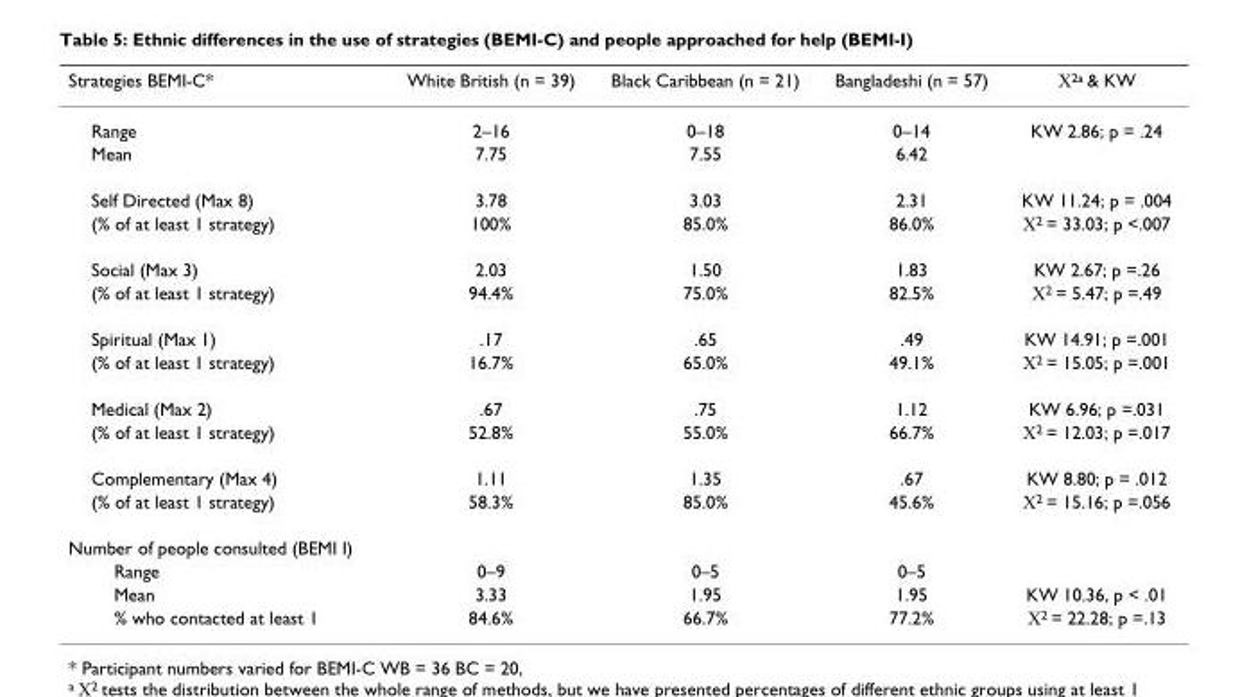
<table><thead><tr><td>Strategies BEMI-C*</td><td>White British (n = 39)</td><td>Black Caribbean (n = 21)</td><td>Bangladeshi (n = 57)</td><td>Χ<sup>2a</sup> &amp; KW</td></tr></thead><tbody><tr><td>Range</td><td>2–16</td><td>0–18</td><td>0–14</td><td>KW 2.86; p = .24</td></tr><tr><td>Mean</td><td>7.75</td><td>7.55</td><td>6.42</td><td></td></tr><tr><td>Self Directed (Max 8)</td><td>3.78</td><td>3.03</td><td>2.31</td><td>KW 11.24; p = .004</td></tr><tr><td>(% of at least 1 strategy)</td><td>100%</td><td>85.0%</td><td>86.0%</td><td>Χ<sup>2</sup> = 33.03; p &lt;.007</td></tr><tr><td>Social (Max 3)</td><td>2.03</td><td>1.50</td><td>1.83</td><td>KW 2.67; p =.26</td></tr><tr><td>(% of at least 1 strategy)</td><td>94.4%</td><td>75.0%</td><td>82.5%</td><td>Χ<sup>2</sup> = 5.47; p =.49</td></tr><tr><td>Spiritual (Max 1)</td><td>.17</td><td>.65</td><td>.49</td><td>KW 14.91; p =.001</td></tr><tr><td>(% of at least 1 strategy)</td><td>16.7%</td><td>65.0%</td><td>49.1%</td><td>Χ<sup>2</sup> = 15.05; p =.001</td></tr><tr><td>Medical (Max 2)</td><td>.67</td><td>.75</td><td>1.12</td><td>KW 6.96; p =.031</td></tr><tr><td>(% of at least 1 strategy)</td><td>52.8%</td><td>55.0%</td><td>66.7%</td><td>Χ<sup>2</sup> = 12.03; p =.017</td></tr><tr><td>Complementary (Max 4)</td><td>1.11</td><td>1.35</td><td>.67</td><td>KW 8.80; p = .012</td></tr><tr><td>(% of at least 1 strategy)</td><td>58.3%</td><td>85.0%</td><td>45.6%</td><td>Χ<sup>2</sup> = 15.16; p =.056</td></tr><tr><td colspan="5">Number of people consulted (BEMI I)</td></tr><tr><td>Range</td><td>0–9</td><td>0–5</td><td>0–5</td><td></td></tr><tr><td>Mean</td><td>3.33</td><td>1.95</td><td>1.95</td><td>KW 10.36, p &lt; .01</td></tr><tr><td>% who contacted at least 1</td><td>84.6%</td><td>66.7%</td><td>77.2%</td><td>Χ<sup>2</sup> = 22.28; p =.13</td></tr></tbody></table>